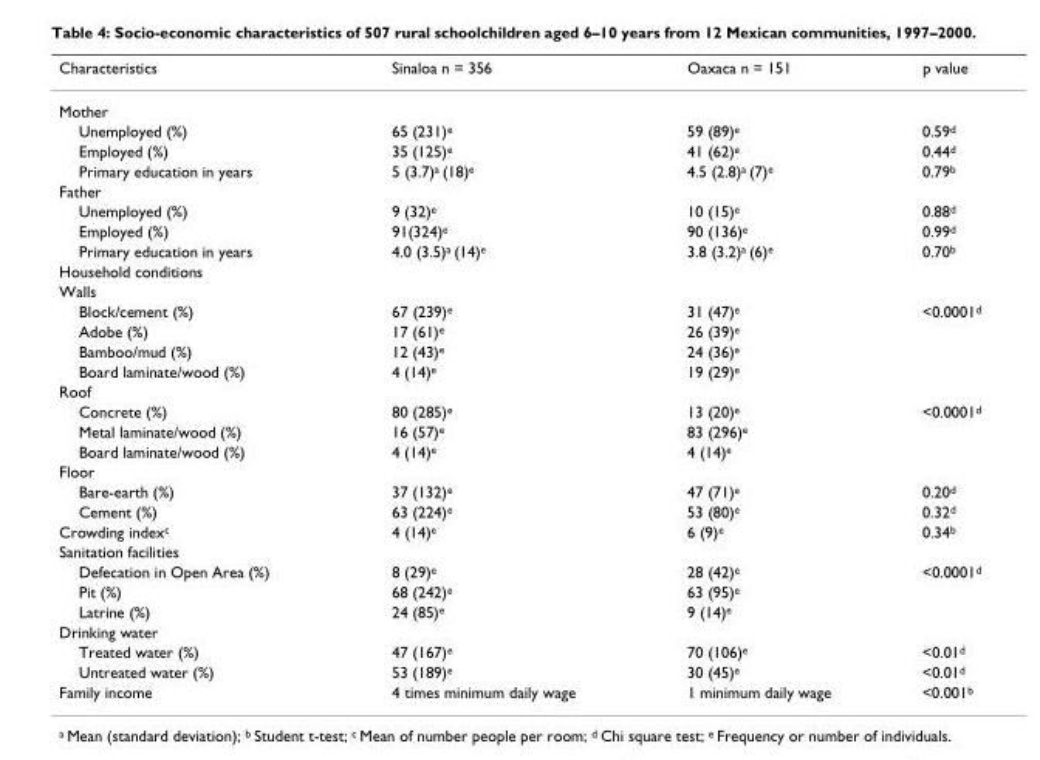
<table><thead><tr><td>Characteristics</td><td>Sinaloa n = 356</td><td>Oaxaca n = 151</td><td>p value</td></tr></thead><tbody><tr><td colspan="4">Mother</td></tr><tr><td>Unemployed (%)</td><td>65 (231)e</td><td>59 (89)e</td><td>0.59d</td></tr><tr><td>Employed (%)</td><td>35 (125)e</td><td>41 (62)e</td><td>0.44d</td></tr><tr><td>Primary education in years</td><td>5 (3.7)a (18)e</td><td>4.5 (2.8)a (7)e</td><td>0.79b</td></tr><tr><td colspan="4">Father</td></tr><tr><td>Unemployed (%)</td><td>9 (32)e</td><td>10 (15)e</td><td>0.88d</td></tr><tr><td>Employed (%)</td><td>91(324)e</td><td>90 (136)e</td><td>0.99d</td></tr><tr><td>Primary education in years</td><td>4.0 (3.5)a (14)e</td><td>3.8 (3.2)a (6)e</td><td>0.70b</td></tr><tr><td colspan="4">Household conditions</td></tr><tr><td colspan="4">Walls</td></tr><tr><td>Block/cement (%)</td><td>67 (239)e</td><td>31 (47)e</td><td>&lt;0.0001d</td></tr><tr><td>Adobe (%)</td><td>17 (61)e</td><td>26 (39)e</td><td></td></tr><tr><td>Bamboo/mud (%)</td><td>12 (43)e</td><td>24 (36)e</td><td></td></tr><tr><td>Board laminate/wood (%)</td><td>4 (14)e</td><td>19 (29)e</td><td></td></tr><tr><td colspan="4">Roof</td></tr><tr><td>Concrete (%)</td><td>80 (285)e</td><td>13 (20)e</td><td>&lt;0.0001d</td></tr><tr><td>Metal laminate/wood (%)</td><td>16 (57)e</td><td>83 (296)e</td><td></td></tr><tr><td>Board laminate/wood (%)</td><td>4 (14)e</td><td>4 (14)e</td><td></td></tr><tr><td colspan="4">Floor</td></tr><tr><td>Bare-earth (%)</td><td>37 (132)e</td><td>47 (71)e</td><td>0.20d</td></tr><tr><td>Cement (%)</td><td>63 (224)e</td><td>53 (80)e</td><td>0.32d</td></tr><tr><td>Crowding indexc</td><td>4 (14)e</td><td>6 (9)e</td><td>0.34b</td></tr><tr><td colspan="4">Sanitation facilities</td></tr><tr><td>Defecation in Open Area (%)</td><td>8 (29)e</td><td>28 (42)e</td><td>&lt;0.0001d</td></tr><tr><td>Pit (%)</td><td>68 (242)e</td><td>63 (95)e</td><td></td></tr><tr><td>Latrine (%)</td><td>24 (85)e</td><td>9 (14)e</td><td></td></tr><tr><td colspan="4">Drinking water</td></tr><tr><td>Treated water (%)</td><td>47 (167)e</td><td>70 (106)e</td><td>&lt;0.01d</td></tr><tr><td>Untreated water (%)</td><td>53 (189)e</td><td>30 (45)e</td><td>&lt;0.01d</td></tr><tr><td>Family income</td><td>4 times minimum daily wage</td><td>1 minimum daily wage</td><td>&lt;0.001b</td></tr></tbody></table>